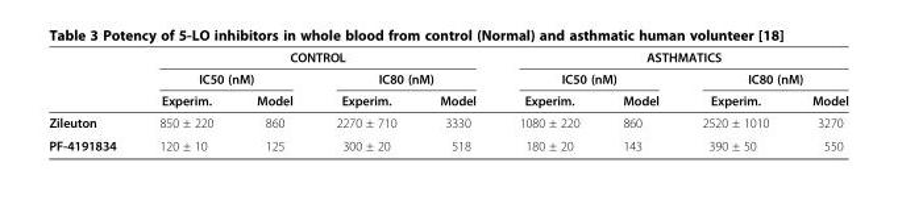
<table><thead><tr><td rowspan="3"></td><td colspan="4">CONTROL</td><td colspan="4">ASTHMATICS</td></tr><tr><td colspan="2">IC50 (nM)</td><td colspan="2">IC80 (nM)</td><td colspan="2">IC50 (nM)</td><td colspan="2">IC80 (nM)</td></tr><tr><td>Experim.</td><td>Model</td><td>Experim.</td><td>Model</td><td>Experim.</td><td>Model</td><td>Experim.</td><td>Model</td></tr></thead><tbody><tr><td>Zileuton</td><td>850 ± 220</td><td>860</td><td>2270 ± 710</td><td>3330</td><td>1080 ± 220</td><td>860</td><td>2520 ± 1010</td><td>3270</td></tr><tr><td>PF-4191834</td><td>120 ± 10</td><td>125</td><td>300 ± 20</td><td>518</td><td>180 ± 20</td><td>143</td><td>390 ± 50</td><td>550</td></tr></tbody></table>